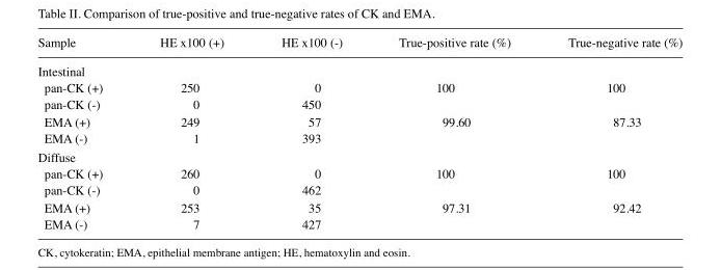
<table><thead><tr><td>Sample</td><td>HE x100 (+)</td><td>HE x100 (-)</td><td>True-positive rate (%)</td><td>True-negative rate (%)</td></tr></thead><tbody><tr><td colspan="5">Intestinal</td></tr><tr><td>pan-CK (+)</td><td>250</td><td>0</td><td>100</td><td>100</td></tr><tr><td>pan-CK (-)</td><td>0</td><td>450</td><td></td><td></td></tr><tr><td>EMA (+)</td><td>249</td><td>57</td><td>99.60</td><td>87.33</td></tr><tr><td>EMA (-)</td><td>1</td><td>393</td><td></td><td></td></tr><tr><td colspan="5">Diffuse</td></tr><tr><td>pan-CK (+)</td><td>260</td><td>0</td><td>100</td><td>100</td></tr><tr><td>pan-CK (-)</td><td>0</td><td>462</td><td></td><td></td></tr><tr><td>EMA (+)</td><td>253</td><td>35</td><td>97.31</td><td>92.42</td></tr><tr><td>EMA (-)</td><td>7</td><td>427</td><td></td><td></td></tr></tbody></table>